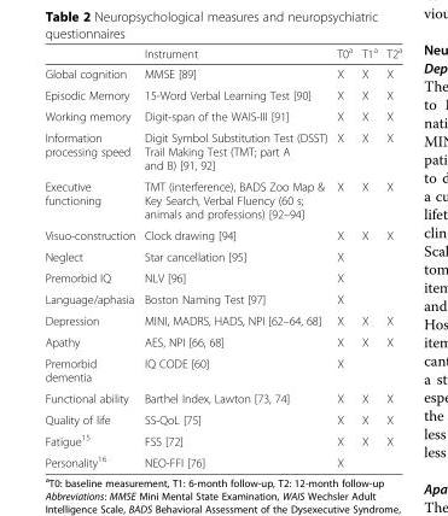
<table><thead><tr><td></td><td>Instrument</td><td>T0<sup>a</sup></td><td>T1<sup>a</sup></td><td>T2<sup>a</sup></td></tr></thead><tbody><tr><td>Global cognition</td><td>MMSE [89]</td><td>X</td><td>X</td><td>X</td></tr><tr><td>Episodic Memory</td><td>15-Word Verbal Learning Test [90]</td><td>X</td><td>X</td><td>X</td></tr><tr><td>Working memory</td><td>Digit-span of the WAIS-III [91]</td><td>X</td><td>X</td><td>X</td></tr><tr><td>Information processing speed</td><td>Digit Symbol Substitution Test (DSST) Trail Making Test (TMT; part A and B) [91, 92]</td><td>X</td><td>X</td><td>X</td></tr><tr><td>Executive functioning</td><td>TMT (interference), BADS Zoo Map &amp; Key Search, Verbal Fluency (60 s; animals and professions) [92–94]</td><td>X</td><td>X</td><td>X</td></tr><tr><td>Visuo-construction</td><td>Clock drawing [94]</td><td>X</td><td>X</td><td>X</td></tr><tr><td>Neglect</td><td>Star cancellation [95]</td><td>X</td><td></td><td></td></tr><tr><td>Premorbid IQ</td><td>NLV [96]</td><td>X</td><td></td><td></td></tr><tr><td>Language/aphasia</td><td>Boston Naming Test [97]</td><td>X</td><td></td><td></td></tr><tr><td>Depression</td><td>MINI, MADRS, HADS, NPI [62–64, 68]</td><td>X</td><td>X</td><td>X</td></tr><tr><td>Apathy</td><td>AES, NPI [66, 68]</td><td>X</td><td>X</td><td>X</td></tr><tr><td>Premorbid dementia</td><td>IQ CODE [60]</td><td>X</td><td></td><td></td></tr><tr><td>Functional ability</td><td>Barthel Index, Lawton [73, 74]</td><td>X</td><td>X</td><td>X</td></tr><tr><td>Quality of life</td><td>SS-QoL [75]</td><td>X</td><td>X</td><td>X</td></tr><tr><td>Fatigue<sup>15</sup></td><td>FSS [72]</td><td>X</td><td>X</td><td>X</td></tr><tr><td>Personality<sup>16</sup></td><td>NEO-FFI [76]</td><td>X</td><td></td><td></td></tr></tbody></table>